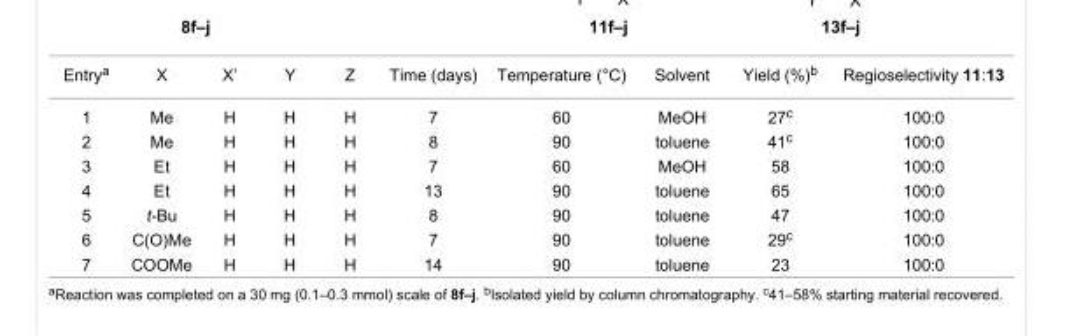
<table><tbody><tr><td>Entry<sup>a</sup></td><td>X</td><td>X’</td><td>Y</td><td>Z</td><td>Time (days)</td><td>Temperature (°C)</td><td>Solvent</td><td>Yield (%)<sup>b</sup></td><td>Regioselectivity 11:13</td></tr><tr><td>1</td><td>Me</td><td>H</td><td>H</td><td>H</td><td>7</td><td>60</td><td>MeOH</td><td>27<sup>c</sup></td><td>100:0</td></tr><tr><td>2</td><td>Me</td><td>H</td><td>H</td><td>H</td><td>8</td><td>90</td><td>toluene</td><td>41<sup>c</sup></td><td>100:0</td></tr><tr><td>3</td><td>Et</td><td>H</td><td>H</td><td>H</td><td>7</td><td>60</td><td>MeOH</td><td>58</td><td>100:0</td></tr><tr><td>4</td><td>Et</td><td>H</td><td>H</td><td>H</td><td>13</td><td>90</td><td>toluene</td><td>65</td><td>100:0</td></tr><tr><td>5</td><td>t-Bu</td><td>H</td><td>H</td><td>H</td><td>8</td><td>90</td><td>toluene</td><td>47</td><td>100:0</td></tr><tr><td>6</td><td>C(O)Me</td><td>H</td><td>H</td><td>H</td><td>7</td><td>90</td><td>toluene</td><td>29<sup>c</sup></td><td>100:0</td></tr><tr><td>7</td><td>COOMe</td><td>H</td><td>H</td><td>H</td><td>14</td><td>90</td><td>toluene</td><td>23</td><td>100:0</td></tr></tbody></table>